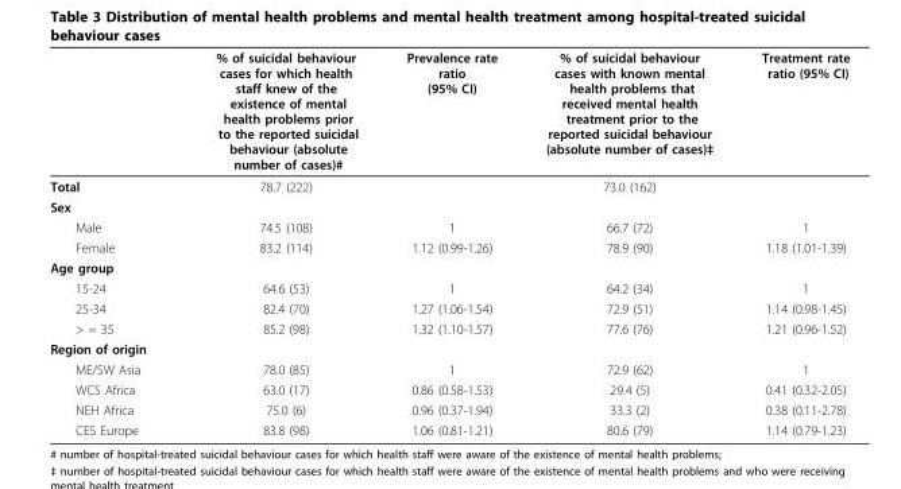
<table><thead><tr><td></td><td>% of suicidal behaviour cases for which health staff knew of the existence of mental health problems prior to the reported suicidal behaviour (absolute number of cases)#</td><td>Prevalence rate ratio (95% CI)</td><td>% of suicidal behaviour cases with known mental health problems that received mental health treatment prior to the reported suicidal behaviour (absolute number of cases)‡</td><td>Treatment rate ratio (95% CI)</td></tr></thead><tbody><tr><td>Total</td><td>78.7 (222)</td><td></td><td>73.0 (162)</td><td></td></tr><tr><td colspan="5">Sex</td></tr><tr><td>Male</td><td>74.5 (108)</td><td>1</td><td>66.7 (72)</td><td>1</td></tr><tr><td>Female</td><td>83.2 (114)</td><td>1.12 (0.99-1.26)</td><td>78.9 (90)</td><td>1.18 (1.01-1.39)</td></tr><tr><td colspan="5">Age group</td></tr><tr><td>15-24</td><td>64.6 (53)</td><td>1</td><td>64.2 (34)</td><td>1</td></tr><tr><td>25-34</td><td>82.4 (70)</td><td>1.27 (1.06-1.54)</td><td>72.9 (51)</td><td>1.14 (0.98-1.45)</td></tr><tr><td>&gt; = 35</td><td>85.2 (98)</td><td>1.32 (1.10-1.57)</td><td>77.6 (76)</td><td>1.21 (0.96-1.52)</td></tr><tr><td colspan="5">Region of origin</td></tr><tr><td>ME/SW Asia</td><td>78.0 (85)</td><td>1</td><td>72.9 (62)</td><td>1</td></tr><tr><td>WCS Africa</td><td>63.0 (17)</td><td>0.86 (0.58-1.53)</td><td>29.4 (5)</td><td>0.41 (0.32-2.05)</td></tr><tr><td>NEH Africa</td><td>75.0 (6)</td><td>0.96 (0.37-1.94)</td><td>33.3 (2)</td><td>0.38 (0.11-2.78)</td></tr><tr><td>CES Europe</td><td>83.8 (98)</td><td>1.06 (0.81-1.21)</td><td>80.6 (79)</td><td>1.14 (0.79-1.23)</td></tr></tbody></table>